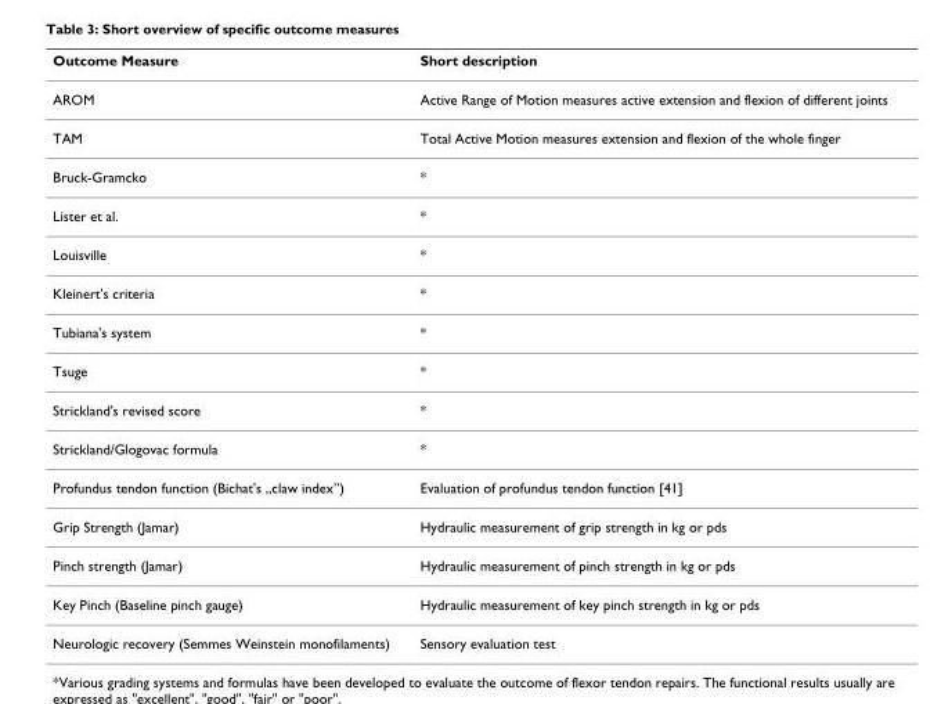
<table><thead><tr><td>Outcome Measure</td><td>Short description</td></tr></thead><tbody><tr><td>AROM</td><td>Active Range of Motion measures active extension and flexion of different joints</td></tr><tr><td>TAM</td><td>Total Active Motion measures extension and flexion of the whole finger</td></tr><tr><td>Bruck-Gramcko</td><td>*</td></tr><tr><td>Lister et al.</td><td>*</td></tr><tr><td>Louisville</td><td>*</td></tr><tr><td>Kleinert&#x27;s criteria</td><td>*</td></tr><tr><td>Tubiana&#x27;s system</td><td>*</td></tr><tr><td>Tsuge</td><td>*</td></tr><tr><td>Strickland&#x27;s revised score</td><td>*</td></tr><tr><td>Strickland/Glogovac formula</td><td>*</td></tr><tr><td>Profundus tendon function (Bichat&#x27;s „claw index”)</td><td>Evaluation of profundus tendon function [41]</td></tr><tr><td>Grip Strength (Jamar)</td><td>Hydraulic measurement of grip strength in kg or pds</td></tr><tr><td>Pinch strength (Jamar)</td><td>Hydraulic measurement of pinch strength in kg or pds</td></tr><tr><td>Key Pinch (Baseline pinch gauge)</td><td>Hydraulic measurement of key pinch strength in kg or pds</td></tr><tr><td>Neurologic recovery (Semmes Weinstein monofilaments)</td><td>Sensory evaluation test</td></tr></tbody></table>